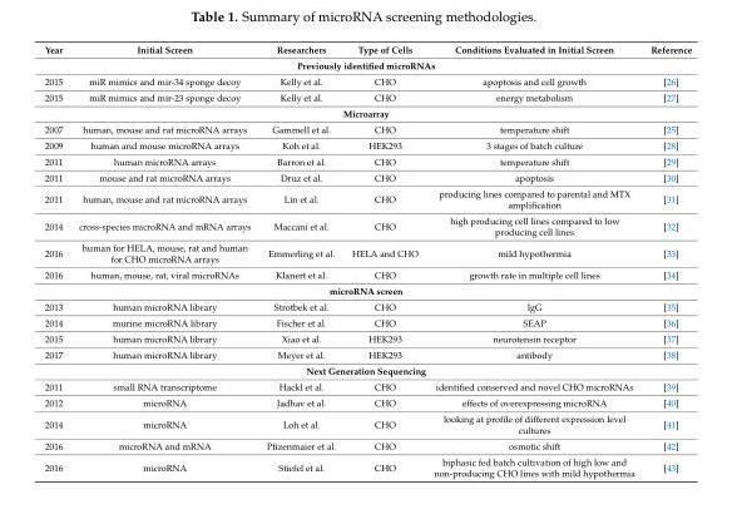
<table><thead><tr><td>Year</td><td>Initial Screen</td><td>Researchers</td><td>Type of Cells</td><td>Conditions Evaluated in Initial Screen</td><td>Reference</td></tr></thead><tbody><tr><td colspan="6">Previously identified microRNAs</td></tr><tr><td>2015</td><td>miR mimics and mir-34 sponge decoy</td><td>Kelly et al.</td><td>CHO</td><td>apoptosis and cell growth</td><td>[26]</td></tr><tr><td>2015</td><td>miR mimics and mir-23 sponge decoy</td><td>Kelly et al.</td><td>CHO</td><td>energy metabolism</td><td>[27]</td></tr><tr><td colspan="6">Microarray</td></tr><tr><td>2007</td><td>human, mouse and rat microRNA arrays</td><td>Gammell et al.</td><td>CHO</td><td>temperature shift</td><td>[25]</td></tr><tr><td>2009</td><td>human and mouse microRNA arrays</td><td>Koh et al.</td><td>HEK293</td><td>3 stages of batch culture</td><td>[28]</td></tr><tr><td>2011</td><td>human microRNA arrays</td><td>Barron et al.</td><td>CHO</td><td>temperature shift</td><td>[29]</td></tr><tr><td>2011</td><td>mouse and rat microRNA arrays</td><td>Druz et al.</td><td>CHO</td><td>apoptosis</td><td>[30]</td></tr><tr><td>2011</td><td>human, mouse and rat microRNA arrays</td><td>Lin et al.</td><td>CHO</td><td>producing lines compared to parental and MTX amplification</td><td>[31]</td></tr><tr><td>2014</td><td>cross-species microRNA and mRNA arrays</td><td>Maccani et al.</td><td>CHO</td><td>high producing cell lines compared to low producing cell lines</td><td>[32]</td></tr><tr><td>2016</td><td>human for HELA, mouse, rat and human for CHO microRNA arrays</td><td>Emmerling et al.</td><td>HELA and CHO</td><td>mild hypothermia</td><td>[33]</td></tr><tr><td>2016</td><td>human, mouse, rat, viral microRNAs</td><td>Klanert et al.</td><td>CHO</td><td>growth rate in multiple cell lines</td><td>[34]</td></tr><tr><td colspan="6">microRNA screen</td></tr><tr><td>2013</td><td>human microRNA library</td><td>Strotbek et al.</td><td>CHO</td><td>IgG</td><td>[35]</td></tr><tr><td>2014</td><td>murine microRNA library</td><td>Fischer et al.</td><td>CHO</td><td>SEAP</td><td>[36]</td></tr><tr><td>2015</td><td>human microRNA library</td><td>Xiao et al.</td><td>HEK293</td><td>neurotensin receptor</td><td>[37]</td></tr><tr><td>2017</td><td>human microRNA library</td><td>Meyer et al.</td><td>HEK293</td><td>antibody</td><td>[38]</td></tr><tr><td colspan="6">Next Generation Sequencing</td></tr><tr><td>2011</td><td>small RNA transcriptome</td><td>Hackl et al.</td><td>CHO</td><td>identified conserved and novel CHO microRNAs</td><td>[39]</td></tr><tr><td>2012</td><td>microRNA</td><td>Jadhav et al.</td><td>CHO</td><td>effects of overexpressing microRNA</td><td>[40]</td></tr><tr><td>2014</td><td>microRNA</td><td>Loh et al.</td><td>CHO</td><td>looking at profile of different expression level cultures</td><td>[41]</td></tr><tr><td>2016</td><td>microRNA and mRNA</td><td>Pfizenmaier et al.</td><td>CHO</td><td>osmotic shift</td><td>[42]</td></tr><tr><td>2016</td><td>microRNA</td><td>Stiefel et al.</td><td>CHO</td><td>biphasic fed batch cultivation of high low and non-producing CHO lines with mild hypothermia</td><td>[43]</td></tr></tbody></table>